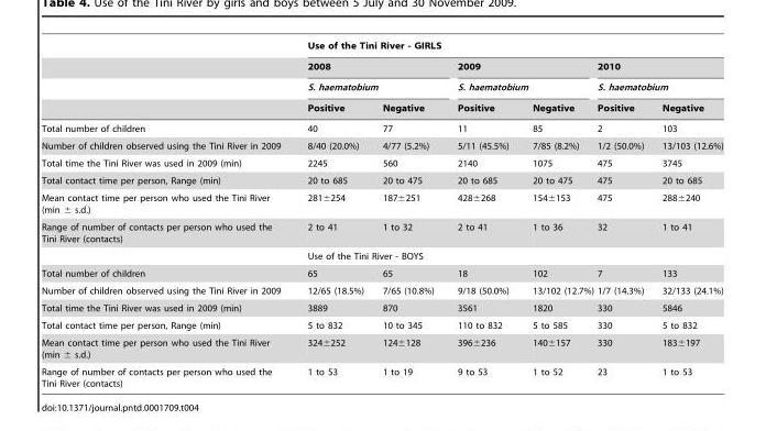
<table><thead><tr><td rowspan="4"></td><td colspan="6">Use of the Tini River - GIRLS</td></tr><tr><td rowspan="2" colspan="2">2008 S. haematobium</td><td rowspan="2" colspan="2">2009 S. haematobium</td><td rowspan="2" colspan="2">2010 S. haematobium</td></tr><tr></tr><tr><td>Positive</td><td>Negative</td><td>Positive</td><td>Negative</td><td>Positive</td><td>Negative</td></tr></thead><tbody><tr><td>Total number of children</td><td>40</td><td>77</td><td>11</td><td>85</td><td>2</td><td>103</td></tr><tr><td>Number of children observed using the Tini River in 2009</td><td>8/40 (20.0%)</td><td>4/77 (5.2%)</td><td>5/11 (45.5%)</td><td>7/85 (8.2%)</td><td>1/2 (50.0%)</td><td>13/103 (12.6%)</td></tr><tr><td>Total time the Tini River was used in 2009 (min)</td><td>2245</td><td>560</td><td>2140</td><td>1075</td><td>475</td><td>3745</td></tr><tr><td>Total contact time per person, Range (min)</td><td>20 to 685</td><td>20 to 475</td><td>20 to 685</td><td>20 to 475</td><td>475</td><td>20 to 685</td></tr><tr><td>Mean contact time per person who used the Tini River (min ± s.d.)</td><td>281±254</td><td>187±251</td><td>428±268</td><td>154±153</td><td>475</td><td>288±240</td></tr><tr><td rowspan="2">Range of number of contacts per person who used the Tini River (contacts)</td><td>2 to 41</td><td>1 to 32</td><td>2 to 41</td><td>1 to 36</td><td>32</td><td>1 to 41</td></tr><tr><td colspan="6">Use of the Tini River - BOYS</td></tr><tr><td>Total number of children</td><td>65</td><td>65</td><td>18</td><td>102</td><td>7</td><td>133</td></tr><tr><td>Number of children observed using the Tini River in 2009</td><td>12/65 (18.5%)</td><td>7/65 (10.8%)</td><td>9/18 (50.0%)</td><td>13/102 (12.7%)</td><td>1/7 (14.3%)</td><td>32/133 (24.1%)</td></tr><tr><td>Total time the Tini River was used in 2009 (min)</td><td>3889</td><td>870</td><td>3561</td><td>1820</td><td>330</td><td>5846</td></tr><tr><td>Total contact time per person, Range (min)</td><td>5 to 832</td><td>10 to 345</td><td>110 to 832</td><td>5 to 585</td><td>330</td><td>5 to 832</td></tr><tr><td>Mean contact time per person who used the Tini River (min ± s.d.)</td><td>324±252</td><td>124±128</td><td>396±236</td><td>140±157</td><td>330</td><td>183±197</td></tr><tr><td>Range of number of contacts per person who used the Tini River (contacts)</td><td>1 to 53</td><td>1 to 19</td><td>9 to 53</td><td>1 to 52</td><td>23</td><td>1 to 53</td></tr></tbody></table>